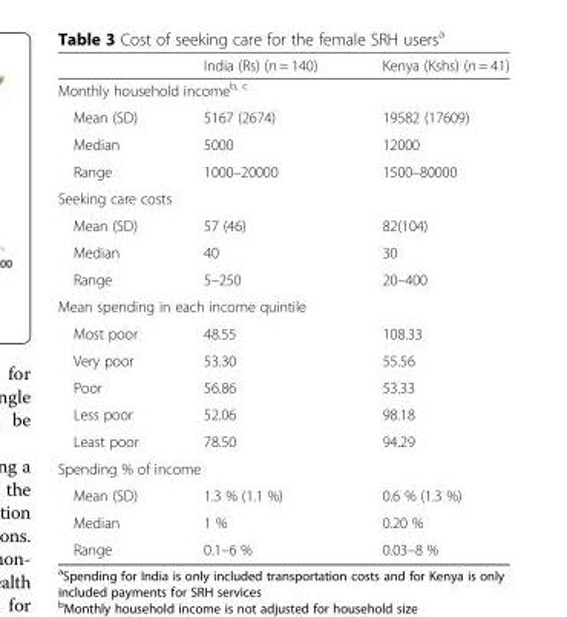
<table><thead><tr><td></td><td>India (Rs) (n = 140)</td><td>Kenya (Kshs) (n = 41)</td></tr></thead><tbody><tr><td colspan="3">Monthly household income<sup>b, c</sup></td></tr><tr><td>Mean (SD)</td><td>5167 (2674)</td><td>19582 (17609)</td></tr><tr><td>Median</td><td>5000</td><td>12000</td></tr><tr><td>Range</td><td>1000–20000</td><td>1500–80000</td></tr><tr><td colspan="3">Seeking care costs</td></tr><tr><td>Mean (SD)</td><td>57 (46)</td><td>82(104)</td></tr><tr><td>Median</td><td>40</td><td>30</td></tr><tr><td>Range</td><td>5–250</td><td>20–400</td></tr><tr><td colspan="3">Mean spending in each income quintile</td></tr><tr><td>Most poor</td><td>48.55</td><td>108.33</td></tr><tr><td>Very poor</td><td>53.30</td><td>55.56</td></tr><tr><td>Poor</td><td>56.86</td><td>53.33</td></tr><tr><td>Less poor</td><td>52.06</td><td>98.18</td></tr><tr><td>Least poor</td><td>78.50</td><td>94.29</td></tr><tr><td colspan="3">Spending % of income</td></tr><tr><td>Mean (SD)</td><td>1.3 % (1.1 %)</td><td>0.6 % (1.3 %)</td></tr><tr><td>Median</td><td>1 %</td><td>0.20 %</td></tr><tr><td>Range</td><td>0.1–6 %</td><td>0.03–8 %</td></tr></tbody></table>